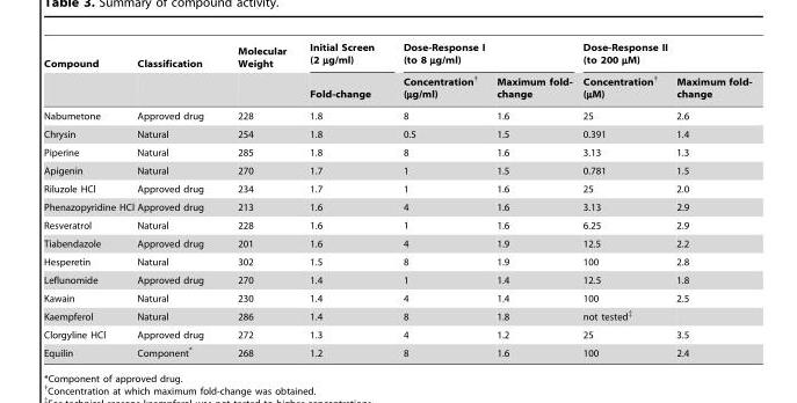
<table><thead><tr><td rowspan="2">Compound</td><td rowspan="2">Classification</td><td rowspan="2">Molecular Weight</td><td rowspan="2">Initial Screen (2 µg/ml) Fold-change</td><td colspan="2">Dose-Response I (to 8 µg/ml)</td><td colspan="2">Dose-Response II (to 200 µM)</td></tr><tr><td>Concentration† (µg/ml)</td><td>Maximum fold- change</td><td>Concentration† (µM)</td><td>Maximum fold- change</td></tr></thead><tbody><tr><td>Nabumetone</td><td>Approved drug</td><td>228</td><td>1.8</td><td>8</td><td>1.6</td><td>25</td><td>2.6</td></tr><tr><td>Chrysin</td><td>Natural</td><td>254</td><td>1.8</td><td>0.5</td><td>1.5</td><td>0.391</td><td>1.4</td></tr><tr><td>Piperine</td><td>Natural</td><td>285</td><td>1.8</td><td>8</td><td>1.6</td><td>3.13</td><td>1.3</td></tr><tr><td>Apigenin</td><td>Natural</td><td>270</td><td>1.7</td><td>1</td><td>1.5</td><td>0.781</td><td>1.5</td></tr><tr><td>Riluzole HCl</td><td>Approved drug</td><td>234</td><td>1.7</td><td>1</td><td>1.6</td><td>25</td><td>2.0</td></tr><tr><td>Phenazopyridine HCl</td><td>Approved drug</td><td>213</td><td>1.6</td><td>4</td><td>1.6</td><td>3.13</td><td>2.9</td></tr><tr><td>Resveratrol</td><td>Natural</td><td>228</td><td>1.6</td><td>1</td><td>1.6</td><td>6.25</td><td>2.9</td></tr><tr><td>Tiabendazole</td><td>Approved drug</td><td>201</td><td>1.6</td><td>4</td><td>1.9</td><td>12.5</td><td>2.2</td></tr><tr><td>Hesperetin</td><td>Natural</td><td>302</td><td>1.5</td><td>8</td><td>1.9</td><td>100</td><td>2.8</td></tr><tr><td>Leflunomide</td><td>Approved drug</td><td>270</td><td>1.4</td><td>1</td><td>1.4</td><td>12.5</td><td>1.8</td></tr><tr><td>Kawain</td><td>Natural</td><td>230</td><td>1.4</td><td>4</td><td>1.4</td><td>100</td><td>2.5</td></tr><tr><td>Kaempferol</td><td>Natural</td><td>286</td><td>1.4</td><td>8</td><td>1.8</td><td>not tested‡</td><td></td></tr><tr><td>Clorgyline HCl</td><td>Approved drug</td><td>272</td><td>1.3</td><td>4</td><td>1.2</td><td>25</td><td>3.5</td></tr><tr><td>Equilin</td><td>Component*</td><td>268</td><td>1.2</td><td>8</td><td>1.6</td><td>100</td><td>2.4</td></tr></tbody></table>